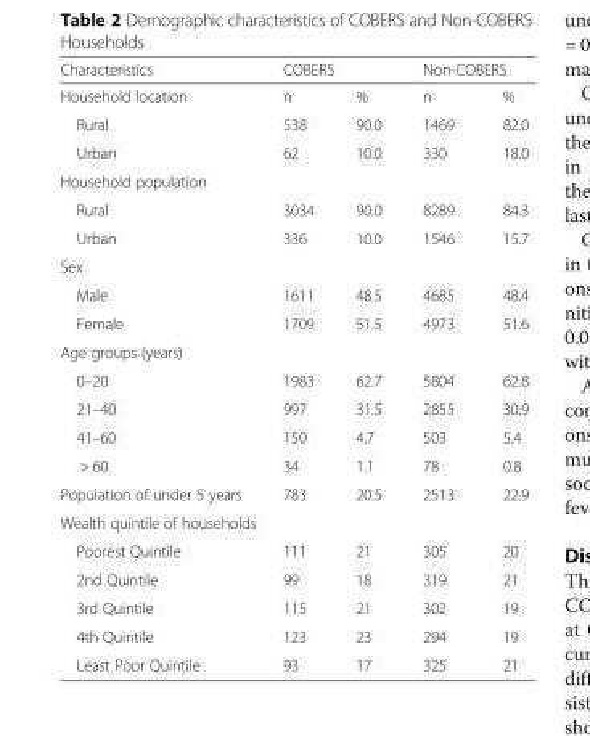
<table><thead><tr><td rowspan="2">Characteristics Household location</td><td colspan="2">COBERS</td><td colspan="2">Non-COBERS</td></tr><tr><td>n</td><td>%</td><td>n</td><td>%</td></tr></thead><tbody><tr><td>Rural</td><td>538</td><td>90.0</td><td>1469</td><td>82.0</td></tr><tr><td>Urban</td><td>62</td><td>10.0</td><td>330</td><td>18.0</td></tr><tr><td colspan="5">Household population</td></tr><tr><td>Rural</td><td>3034</td><td>90.0</td><td>8289</td><td>84.3</td></tr><tr><td>Urban</td><td>336</td><td>10.0</td><td>1546</td><td>15.7</td></tr><tr><td colspan="5">Sex</td></tr><tr><td>Male</td><td>1611</td><td>48.5</td><td>4685</td><td>48.4</td></tr><tr><td>Female</td><td>1709</td><td>51.5</td><td>4973</td><td>51.6</td></tr><tr><td colspan="5">Age groups (years)</td></tr><tr><td>0–20</td><td>1983</td><td>62.7</td><td>5804</td><td>62.8</td></tr><tr><td>21–40</td><td>997</td><td>31.5</td><td>2855</td><td>30.9</td></tr><tr><td>41–60</td><td>150</td><td>4.7</td><td>503</td><td>5.4</td></tr><tr><td>&gt; 60</td><td>34</td><td>1.1</td><td>78</td><td>0.8</td></tr><tr><td>Population of under 5 years</td><td>783</td><td>20.5</td><td>2513</td><td>22.9</td></tr><tr><td colspan="5">Wealth quintile of households</td></tr><tr><td>Poorest Quintile</td><td>111</td><td>21</td><td>305</td><td>20</td></tr><tr><td>2nd Quintile</td><td>99</td><td>18</td><td>319</td><td>21</td></tr><tr><td>3rd Quintile</td><td>115</td><td>21</td><td>302</td><td>19</td></tr><tr><td>4th Quintile</td><td>123</td><td>23</td><td>294</td><td>19</td></tr><tr><td>Least Poor Quintile</td><td>93</td><td>17</td><td>325</td><td>21</td></tr></tbody></table>